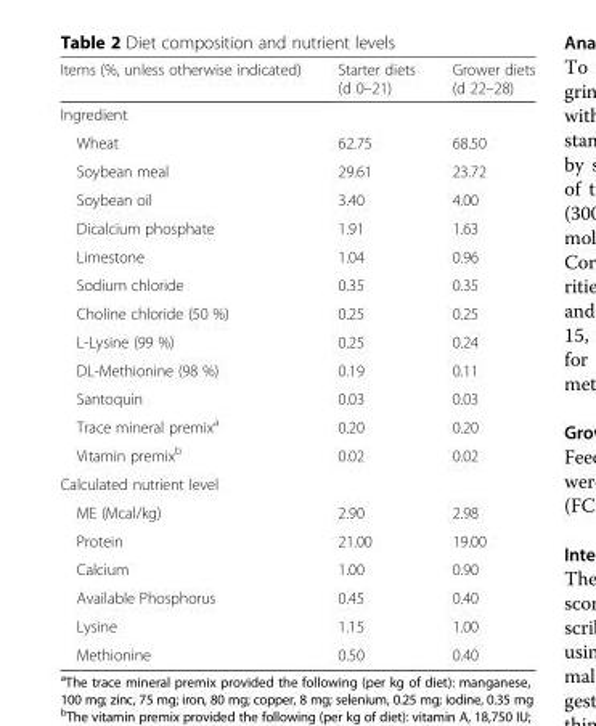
<table><thead><tr><td>Items (%, unless otherwise indicated)</td><td>Starter diets (d 0–21)</td><td>Grower diets (d 22–28)</td></tr></thead><tbody><tr><td colspan="3">Ingredient</td></tr><tr><td>Wheat</td><td>62.75</td><td>68.50</td></tr><tr><td>Soybean meal</td><td>29.61</td><td>23.72</td></tr><tr><td>Soybean oil</td><td>3.40</td><td>4.00</td></tr><tr><td>Dicalcium phosphate</td><td>1.91</td><td>1.63</td></tr><tr><td>Limestone</td><td>1.04</td><td>0.96</td></tr><tr><td>Sodium chloride</td><td>0.35</td><td>0.35</td></tr><tr><td>Choline chloride (50 %)</td><td>0.25</td><td>0.25</td></tr><tr><td>L-Lysine (99 %)</td><td>0.25</td><td>0.24</td></tr><tr><td>DL-Methionine (98 %)</td><td>0.19</td><td>0.11</td></tr><tr><td>Santoquin</td><td>0.03</td><td>0.03</td></tr><tr><td>Trace mineral premix<sup>a</sup></td><td>0.20</td><td>0.20</td></tr><tr><td>Vitamin premix<sup>b</sup></td><td>0.02</td><td>0.02</td></tr><tr><td colspan="3">Calculated nutrient level</td></tr><tr><td>ME (Mcal/kg)</td><td>2.90</td><td>2.98</td></tr><tr><td>Protein</td><td>21.00</td><td>19.00</td></tr><tr><td>Calcium</td><td>1.00</td><td>0.90</td></tr><tr><td>Available Phosphorus</td><td>0.45</td><td>0.40</td></tr><tr><td>Lysine</td><td>1.15</td><td>1.00</td></tr><tr><td>Methionine</td><td>0.50</td><td>0.40</td></tr></tbody></table>